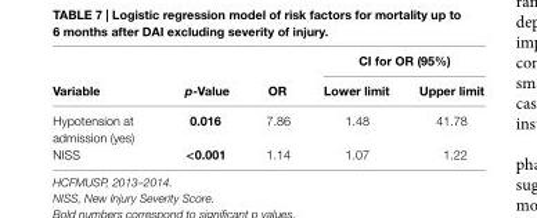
<table><thead><tr><td rowspan="2">Variable</td><td rowspan="2">p-Value</td><td rowspan="2">Or</td><td colspan="2">ci for Or (95%)</td></tr><tr><td>lower limit</td><td>Upper limit</td></tr></thead><tbody><tr><td>Hypotension at admission (yes)</td><td>0.016</td><td>7.86</td><td>1.48</td><td>41.78</td></tr><tr><td>NISS</td><td>&lt;0.001</td><td>1.14</td><td>1.07</td><td>1.22</td></tr></tbody></table>